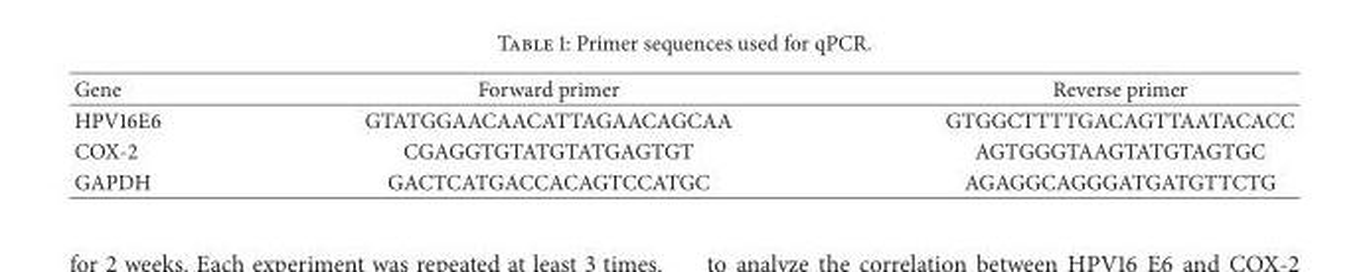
<table><thead><tr><td>Gene</td><td>Forward primer</td><td>Reverse primer</td></tr></thead><tbody><tr><td>HPV16E6</td><td>GTATGGAACAACATTAGAACAGCAA</td><td>GTGGCTTTTGACAGTTAATACACC</td></tr><tr><td>COX-2</td><td>CGAGGTGTATGTATGAGTGT</td><td>AGTGGGTAAGTATGTAGTGC</td></tr><tr><td>GAPDH</td><td>GACTCATGACCACAGTCCATGC</td><td>AGAGGCAGGGATGATGTTCTG</td></tr></tbody></table>